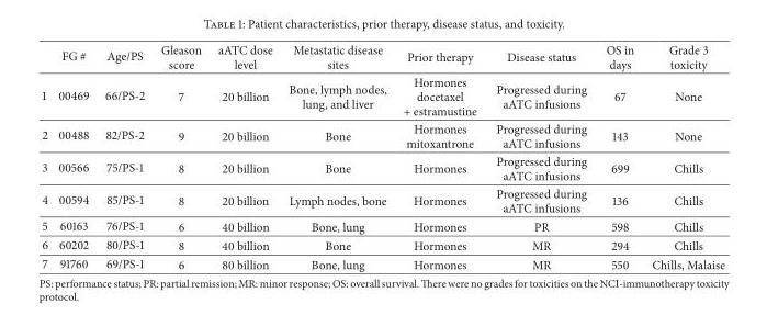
<table><thead><tr><td></td><td>FG #</td><td>Age/PS</td><td>Gleason score</td><td>aATC dose level</td><td>Metastatic disease sites</td><td>Prior therapy</td><td>Disease status</td><td>OS in days</td><td>Grade 3 toxicity</td></tr></thead><tbody><tr><td>1</td><td>00469</td><td>66/PS-2</td><td>7</td><td>20 billion</td><td>Bone, lymph nodes, lung, and liver</td><td>Hormones docetaxel + estramustine</td><td>Progressed during aATC infusions</td><td>67</td><td>None</td></tr><tr><td>2</td><td>00488</td><td>82/PS-2</td><td>9</td><td>20 billion</td><td>Bone</td><td>Hormones mitoxantrone</td><td>Progressed during aATC infusions</td><td>143</td><td>None</td></tr><tr><td>3</td><td>00566</td><td>75/PS-1</td><td>8</td><td>20 billion</td><td>Bone</td><td>Hormones</td><td>Progressed during aATC infusions</td><td>699</td><td>Chills</td></tr><tr><td>4</td><td>00594</td><td>85/PS-1</td><td>8</td><td>20 billion</td><td>Lymph nodes, bone</td><td>Hormones</td><td>Progressed during aATC infusions</td><td>136</td><td>Chills</td></tr><tr><td>5</td><td>60163</td><td>76/PS-1</td><td>6</td><td>40 billion</td><td>Bone, lung</td><td>Hormones</td><td>PR</td><td>598</td><td>Chills</td></tr><tr><td>6</td><td>60202</td><td>80/PS-1</td><td>8</td><td>40 billion</td><td>Bone</td><td>Hormones</td><td>MR</td><td>294</td><td>Chills</td></tr><tr><td>7</td><td>91760</td><td>69/PS-1</td><td>6</td><td>80 billion</td><td>Bone, lung</td><td>Hormones</td><td>MR</td><td>550</td><td>Chills, Malaise</td></tr></tbody></table>